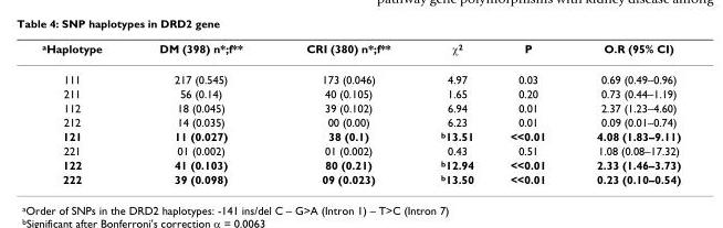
<table><thead><tr><td><sup>a</sup>Haplotype</td><td>DM (398) n*;f**</td><td>CRI (380) n*;f**</td><td>χ<sup>2</sup></td><td>P</td><td>O.R (95% CI)</td></tr></thead><tbody><tr><td>111</td><td>217 (0.545)</td><td>173 (0.046)</td><td>4.97</td><td>0.03</td><td>0.69 (0.49–0.96)</td></tr><tr><td>211</td><td>56 (0.14)</td><td>40 (0.105)</td><td>1.65</td><td>0.20</td><td>0.73 (0.44–1.19)</td></tr><tr><td>112</td><td>18 (0.045)</td><td>39 (0.102)</td><td>6.94</td><td>0.01</td><td>2.37 (1.23–4.60)</td></tr><tr><td>212</td><td>14 (0.035)</td><td>00 (0.00)</td><td>6.23</td><td>0.01</td><td>0.09 (0.01–0.74)</td></tr><tr><td>121</td><td>11 (0.027)</td><td>38 (0.1)</td><td><sup>b</sup>13.51</td><td>&lt;&lt;0.01</td><td>4.08 (1.83–9.11)</td></tr><tr><td>221</td><td>01 (0.002)</td><td>01 (0.002)</td><td>0.43</td><td>0.51</td><td>1.08 (0.08–17.32)</td></tr><tr><td>122</td><td>41 (0.103)</td><td>80 (0.21)</td><td><sup>b</sup>12.94</td><td>&lt;&lt;0.01</td><td>2.33 (1.46–3.73)</td></tr><tr><td>222</td><td>39 (0.098)</td><td>09 (0.023)</td><td><sup>b</sup>13.50</td><td>&lt;&lt;0.01</td><td>0.23 (0.10–0.54)</td></tr></tbody></table>